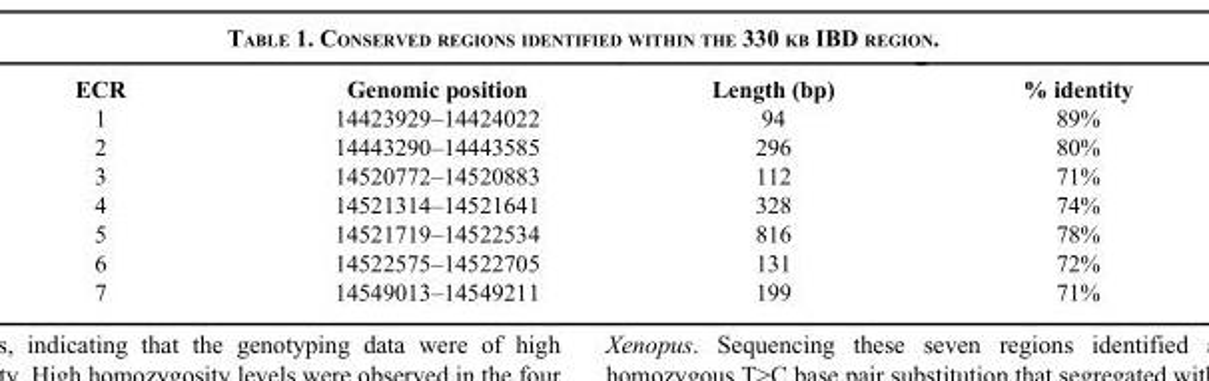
<table><thead><tr><td>ECR</td><td>Genomic position</td><td>Length (bp)</td><td>% identity</td></tr></thead><tbody><tr><td>1</td><td>14423929–14424022</td><td>94</td><td>89%</td></tr><tr><td>2</td><td>14443290–14443585</td><td>296</td><td>80%</td></tr><tr><td>3</td><td>14520772–14520883</td><td>112</td><td>71%</td></tr><tr><td>4</td><td>14521314–14521641</td><td>328</td><td>74%</td></tr><tr><td>5</td><td>14521719–14522534</td><td>816</td><td>78%</td></tr><tr><td>6</td><td>14522575–14522705</td><td>131</td><td>72%</td></tr><tr><td>7</td><td>14549013–14549211</td><td>199</td><td>71%</td></tr></tbody></table>